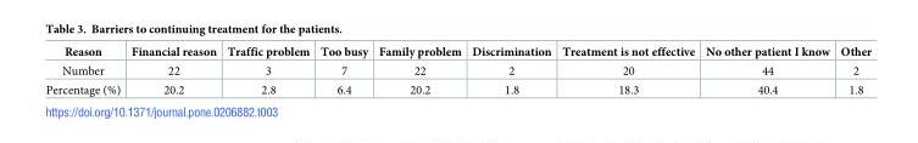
<table><thead><tr><td>Reason</td><td>Financial reason</td><td>Traffic problem</td><td>Too busy</td><td>Family problem</td><td>Discrimination</td><td>Treatment is not effective</td><td>No other patient I know</td><td>Other</td></tr></thead><tbody><tr><td>Number</td><td>22</td><td>3</td><td>7</td><td>22</td><td>2</td><td>20</td><td>44</td><td>2</td></tr><tr><td>Percentage (%)</td><td>20.2</td><td>2.8</td><td>6.4</td><td>20.2</td><td>1.8</td><td>18.3</td><td>40.4</td><td>1.8</td></tr></tbody></table>